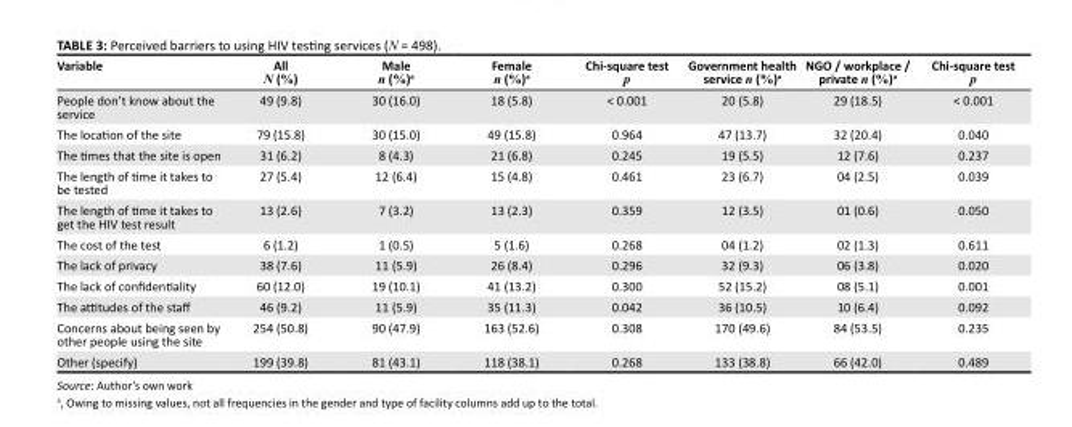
<table><thead><tr><td>Variable</td><td>All N (%)</td><td>Male n (%)<sup>a</sup></td><td>Female n (%)<sup>a</sup></td><td>Chi-square test p</td><td>Government health service n (%)<sup>a</sup></td><td>NGO / workplace / private n (%)<sup>a</sup></td><td>Chi-square test p</td></tr></thead><tbody><tr><td>People don’t know about the service</td><td>49 (9.8)</td><td>30 (16.0)</td><td>18 (5.8)</td><td>&lt; 0.001</td><td>20 (5.8)</td><td>29 (18.5)</td><td>&lt; 0.001</td></tr><tr><td>The location of the site</td><td>79 (15.8)</td><td>30 (15.0)</td><td>49 (15.8)</td><td>0.964</td><td>47 (13.7)</td><td>32 (20.4)</td><td>0.040</td></tr><tr><td>The times that the site is open</td><td>31 (6.2)</td><td>8 (4.3)</td><td>21 (6.8)</td><td>0.245</td><td>19 (5.5)</td><td>12 (7.6)</td><td>0.237</td></tr><tr><td>The length of time it takes to be tested</td><td>27 (5.4)</td><td>12 (6.4)</td><td>15 (4.8)</td><td>0.461</td><td>23 (6.7)</td><td>04 (2.5)</td><td>0.039</td></tr><tr><td>The length of time it takes to get the HIV test result</td><td>13 (2.6)</td><td>7 (3.2)</td><td>13 (2.3)</td><td>0.359</td><td>12 (3.5)</td><td>01 (0.6)</td><td>0.050</td></tr><tr><td>The cost of the test</td><td>6 (1.2)</td><td>1 (0.5)</td><td>5 (1.6)</td><td>0.268</td><td>04 (1.2)</td><td>02 (1.3)</td><td>0.611</td></tr><tr><td>The lack of privacy</td><td>38 (7.6)</td><td>11 (5.9)</td><td>26 (8.4)</td><td>0.296</td><td>32 (9.3)</td><td>06 (3.8)</td><td>0.020</td></tr><tr><td>The lack of confidentiality</td><td>60 (12.0)</td><td>19 (10.1)</td><td>41 (13.2)</td><td>0.300</td><td>52 (15.2)</td><td>08 (5.1)</td><td>0.001</td></tr><tr><td>The attitudes of the staff</td><td>46 (9.2)</td><td>11 (5.9)</td><td>35 (11.3)</td><td>0.042</td><td>36 (10.5)</td><td>10 (6.4)</td><td>0.092</td></tr><tr><td>Concerns about being seen by other people using the site</td><td>254 (50.8)</td><td>90 (47.9)</td><td>163 (52.6)</td><td>0.308</td><td>170 (49.6)</td><td>84 (53.5)</td><td>0.235</td></tr><tr><td>Other (specify)</td><td>199 (39.8)</td><td>81 (43.1)</td><td>118 (38.1)</td><td>0.268</td><td>133 (38.8)</td><td>66 (42.0)</td><td>0.489</td></tr></tbody></table>